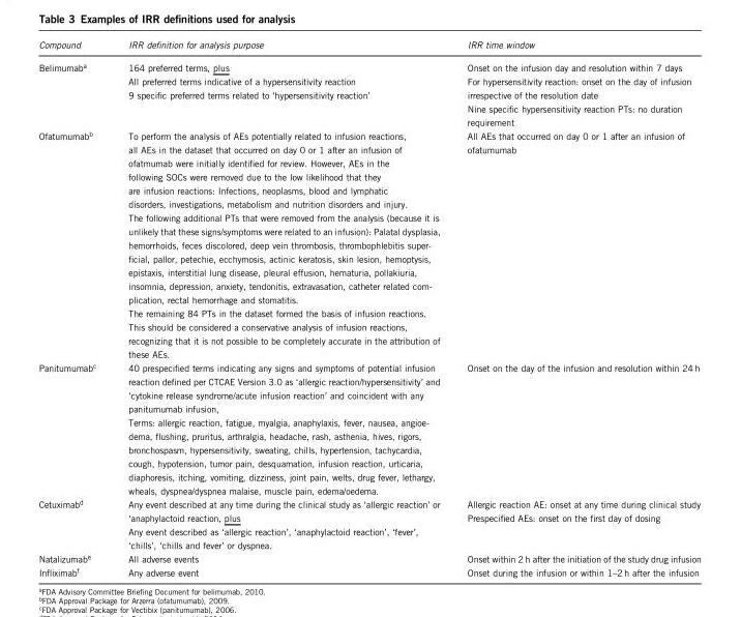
<table><thead><tr><td>Compound</td><td>IRR definition for analysis purpose</td><td>IRR time window</td></tr></thead><tbody><tr><td>Belimumab<sup>a</sup></td><td>164 preferred terms, plus All preferred terms indicative of a hypersensitivity reaction 9 specific preferred terms related to ‘hypersensitivity reaction’</td><td>Onset on the infusion day and resolution within 7 days For hypersensitivity reaction: onset on the day of infusion irrespective of the resolution date Nine specific hypersensitivity reaction PTs: no duration requirement</td></tr><tr><td>Ofatumumab<sup>b</sup></td><td>To perform the analysis of AEs potentially related to infusion reactions, all AEs in the dataset that occurred on day 0 or 1 after an infusion of ofatmumab were initially identified for review. However, AEs in the following SOCs were removed due to the low likelihood that they are infusion reactions: Infections, neoplasms, blood and lymphatic disorders, investigations, metabolism and nutrition disorders and injury. The following additional PTs that were removed from the analysis (because it is unlikely that these signs/symptoms were related to an infusion): Palatal dysplasia, hemorrhoids, feces discolored, deep vein thrombosis, thrombophlebitis super- ficial, pallor, petechie, ecchymosis, actinic keratosis, skin lesion, hemoptysis, epistaxis, interstitial lung disease, pleural effusion, hematuria, pollakiuria, insomnia, depression, anxiety, tendonitis, extravasation, catheter related com- plication, rectal hemorrhage and stomatitis. The remaining 84 PTs in the dataset formed the basis of infusion reactions. This should be considered a conservative analysis of infusion reactions, recognizing that it is not possible to be completely accurate in the attribution of these AEs.</td><td>All AEs that occurred on day 0 or 1 after an infusion of ofatumumab</td></tr><tr><td>Panitumumab<sup>c</sup></td><td>40 prespecified terms indicating any signs and symptoms of potential infusion reaction defined per CTCAE Version 3.0 as ‘allergic reaction/hypersensitivity’ and ‘cytokine release syndrome/acute infusion reaction’ and coincident with any panitumumab infusion, Terms: allergic reaction, fatigue, myalgia, anaphylaxis, fever, nausea, angioe- dema, flushing, pruritus, arthralgia, headache, rash, asthenia, hives, rigors, bronchospasm, hypersensitivity, sweating, chills, hypertension, tachycardia, cough, hypotension, tumor pain, desquamation, infusion reaction, urticaria, diaphoresis, itching, vomiting, dizziness, joint pain, welts, drug fever, lethargy, wheals, dyspnea/dyspnea malaise, muscle pain, edema/oedema.</td><td>Onset on the day of the infusion and resolution within 24 h</td></tr><tr><td>Cetuximab<sup>d</sup></td><td>Any event described at any time during the clinical study as ‘allergic reaction’ or ‘anaphylactoid reaction, plus Any event described as ‘allergic reaction’, ‘anaphylactoid reaction’, ‘fever’, ‘chills’, ‘chills and fever’ or dyspnea.</td><td>Allergic reaction AE: onset at any time during clinical study Prespecified AEs: onset on the first day of dosing</td></tr><tr><td>Natalizumab<sup>e</sup></td><td>All adverse events</td><td>Onset within 2 h after the initiation of the study drug infusion</td></tr><tr><td>Infliximab<sup>f</sup></td><td>Any adverse event</td><td>Onset during the infusion or within 1–2 h after the infusion</td></tr></tbody></table>